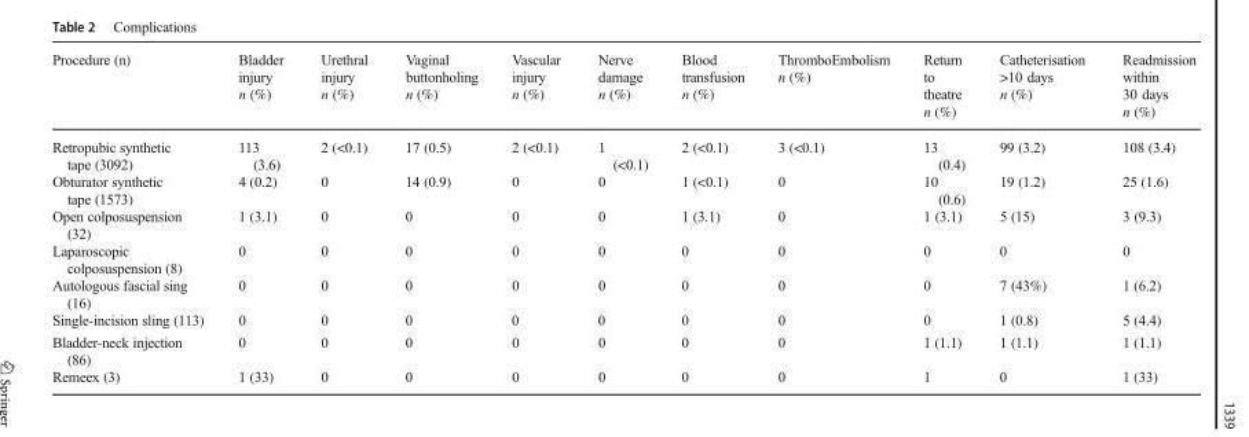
<table><thead><tr><td>Procedure (n)</td><td>Bladder injury n (%)</td><td>Urethral injury n (%)</td><td>Vaginal buttonholing n (%)</td><td>Vascular injury n (%)</td><td>Nerve damage n (%)</td><td>Blood transfusion n (%)</td><td>ThromboEmbolism n (%)</td><td>Return to theatre n (%)</td><td>Catheterisation &gt;10 days n (%)</td><td>Readmission within 30 days n (%)</td></tr></thead><tbody><tr><td>Retropubic synthetic tape (3092)</td><td>113 (3.6)</td><td>2 (&lt;0.1)</td><td>17 (0.5)</td><td>2 (&lt;0.1)</td><td>1 (&lt;0.1)</td><td>2 (&lt;0.1)</td><td>3 (&lt;0.1)</td><td>13 (0.4)</td><td>99 (3.2)</td><td>108 (3.4)</td></tr><tr><td>Obturator synthetic tape (1573)</td><td>4 (0.2)</td><td>0</td><td>14 (0.9)</td><td>0</td><td>0</td><td>1 (&lt;0.1)</td><td>0</td><td>10 (0.6)</td><td>19 (1.2)</td><td>25 (1.6)</td></tr><tr><td>Open colposuspension (32)</td><td>1 (3.1)</td><td>0</td><td>0</td><td>0</td><td>0</td><td>1 (3.1)</td><td>0</td><td>1 (3.1)</td><td>5 (15)</td><td>3 (9.3)</td></tr><tr><td>Laparoscopic colposuspension (8)</td><td>0</td><td>0</td><td>0</td><td>0</td><td>0</td><td>0</td><td>0</td><td>0</td><td>0</td><td>0</td></tr><tr><td>Autologous fascial sing (16)</td><td>0</td><td>0</td><td>0</td><td>0</td><td>0</td><td>0</td><td>0</td><td>0</td><td>7 (43%)</td><td>1 (6.2)</td></tr><tr><td>Single-incision sling (113)</td><td>0</td><td>0</td><td>0</td><td>0</td><td>0</td><td>0</td><td>0</td><td>0</td><td>1 (0.8)</td><td>5 (4.4)</td></tr><tr><td>Bladder-neck injection (86)</td><td>0</td><td>0</td><td>0</td><td>0</td><td>0</td><td>0</td><td>0</td><td>1 (1.1)</td><td>1 (1.1)</td><td>1 (1.1)</td></tr><tr><td>Remeex (3)</td><td>1 (33)</td><td>0</td><td>0</td><td>0</td><td>0</td><td>0</td><td>0</td><td>1</td><td>0</td><td>1 (33)</td></tr></tbody></table>